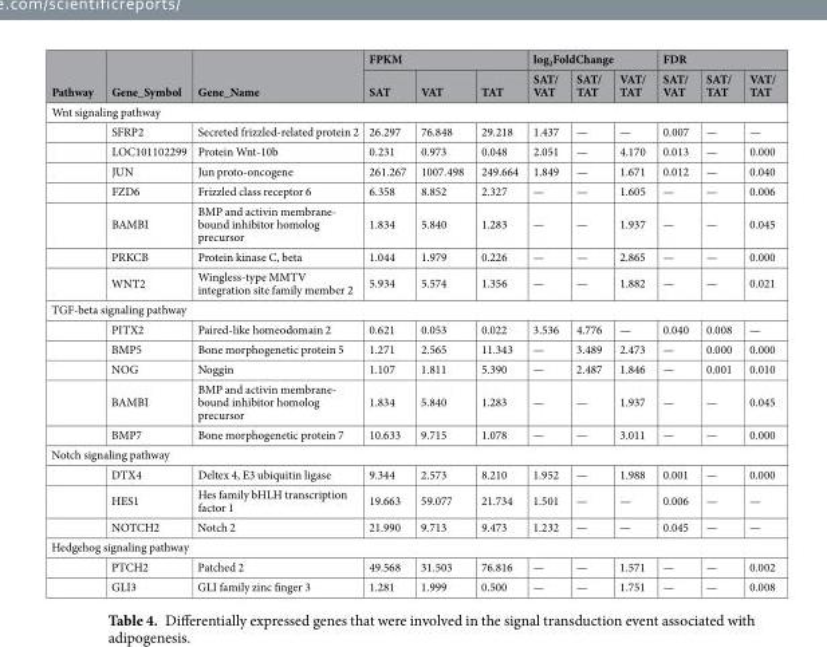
<table><thead><tr><td rowspan="2">Pathway</td><td rowspan="2">Gene_Symbol</td><td rowspan="2">Gene_Name</td><td colspan="3">FPKM</td><td colspan="3">log<sub>2</sub>FoldChange</td><td colspan="3">FDR</td></tr><tr><td>SAT</td><td>VAT</td><td>TAT</td><td>SAT/ VAT</td><td>SAT/ TAT</td><td>VAT/ TAT</td><td>SAT/ VAT</td><td>SAT/ TAT</td><td>VAT/ TAT</td></tr></thead><tbody><tr><td colspan="12">Wnt signaling pathway</td></tr><tr><td></td><td>SFRP2</td><td>Secreted frizzled-related protein 2</td><td>26.297</td><td>76.848</td><td>29.218</td><td>1.437</td><td>—</td><td>—</td><td>0.007</td><td>—</td><td>—</td></tr><tr><td></td><td>LOC101102299</td><td>Protein Wnt-10b</td><td>0.231</td><td>0.973</td><td>0.048</td><td>2.051</td><td>—</td><td>4.170</td><td>0.013</td><td>—</td><td>0.000</td></tr><tr><td></td><td>JUN</td><td>Jun proto-oncogene</td><td>261.267</td><td>1007.498</td><td>249.664</td><td>1.849</td><td>—</td><td>1.671</td><td>0.012</td><td>—</td><td>0.040</td></tr><tr><td></td><td>FZD6</td><td>Frizzled class receptor 6</td><td>6.358</td><td>8.852</td><td>2.327</td><td>—</td><td>—</td><td>1.605</td><td>—</td><td>—</td><td>0.006</td></tr><tr><td></td><td>BAMBI</td><td>BMP and activin membrane- bound inhibitor homolog precursor</td><td>1.834</td><td>5.840</td><td>1.283</td><td>—</td><td>—</td><td>1.937</td><td>—</td><td>—</td><td>0.045</td></tr><tr><td></td><td>PRKCB</td><td>Protein kinase C, beta</td><td>1.044</td><td>1.979</td><td>0.226</td><td>—</td><td>—</td><td>2.865</td><td>—</td><td>—</td><td>0.000</td></tr><tr><td></td><td>WNT2</td><td>Wingless-type MMTV integration site family member 2</td><td>5.934</td><td>5.574</td><td>1.356</td><td>—</td><td>—</td><td>1.882</td><td>—</td><td>—</td><td>0.021</td></tr><tr><td colspan="12">TGF-beta signaling pathway</td></tr><tr><td></td><td>PITX2</td><td>Paired-like homeodomain 2</td><td>0.621</td><td>0.053</td><td>0.022</td><td>3.536</td><td>4.776</td><td>—</td><td>0.040</td><td>0.008</td><td>—</td></tr><tr><td></td><td>BMP5</td><td>Bone morphogenetic protein 5</td><td>1.271</td><td>2.565</td><td>11.343</td><td>—</td><td>3.489</td><td>2.473</td><td>—</td><td>0.000</td><td>0.000</td></tr><tr><td></td><td>NOG</td><td>Noggin</td><td>1.107</td><td>1.811</td><td>5.390</td><td>—</td><td>2.487</td><td>1.846</td><td>—</td><td>0.001</td><td>0.010</td></tr><tr><td></td><td>BAMBI</td><td>BMP and activin membrane- bound inhibitor homolog precursor</td><td>1.834</td><td>5.840</td><td>1.283</td><td>—</td><td>—</td><td>1.937</td><td>—</td><td>—</td><td>0.045</td></tr><tr><td></td><td>BMP7</td><td>Bone morphogenetic protein 7</td><td>10.633</td><td>9.715</td><td>1.078</td><td>—</td><td>—</td><td>3.011</td><td>—</td><td>—</td><td>0.000</td></tr><tr><td colspan="12">Notch signaling pathway</td></tr><tr><td></td><td>DTX4</td><td>Deltex 4, E3 ubiquitin ligase</td><td>9.344</td><td>2.573</td><td>8.210</td><td>1.952</td><td>—</td><td>1.988</td><td>0.001</td><td>—</td><td>0.000</td></tr><tr><td></td><td>HES1</td><td>Hes family bHLH transcription factor 1</td><td>19.663</td><td>59.077</td><td>21.734</td><td>1.501</td><td>—</td><td>—</td><td>0.006</td><td>—</td><td>—</td></tr><tr><td></td><td>NOTCH2</td><td>Notch 2</td><td>21.990</td><td>9.713</td><td>9.473</td><td>1.232</td><td>—</td><td>—</td><td>0.045</td><td>—</td><td>—</td></tr><tr><td colspan="12">Hedgehog signaling pathway</td></tr><tr><td></td><td>PTCH2</td><td>Patched 2</td><td>49.568</td><td>31.503</td><td>76.816</td><td>—</td><td>—</td><td>1.571</td><td>—</td><td>—</td><td>0.002</td></tr><tr><td></td><td>GLI3</td><td>GLI family zinc finger 3</td><td>1.281</td><td>1.999</td><td>0.500</td><td>—</td><td>—</td><td>1.751</td><td>—</td><td>—</td><td>0.008</td></tr></tbody></table>